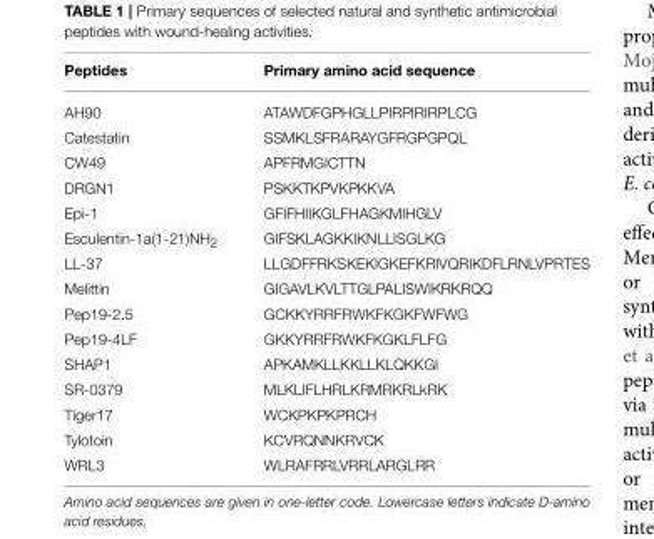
<table><thead><tr><td>Peptides</td><td>Primary amino acid sequence</td></tr></thead><tbody><tr><td>AH90</td><td>ATAWDFGPHGLLPIRPIRIRPLCG</td></tr><tr><td>Catestatin</td><td>SSMKLSFRARAYGFRGPGPQL</td></tr><tr><td>CW49</td><td>APFRMGICTTN</td></tr><tr><td>DRGN1</td><td>PSKKTKPVKPKKVA</td></tr><tr><td>Epi-1</td><td>GFIFHIIKGLFHAGKMIHGLV</td></tr><tr><td>Esculentin-1a(1-21)NH<sub>2</sub></td><td>GIFSKLAGKKIKNLLISGLKG</td></tr><tr><td>LL-37</td><td>LLGDFFRKSKEKIGKEFKRIVQRIKDFLRNLVPRTES</td></tr><tr><td>Melittin</td><td>GIGAVLKVLTTGLPALISWIKRKRQQ</td></tr><tr><td>Pep19-2.5</td><td>GCKKYRRFRWKFKGKFWFWG</td></tr><tr><td>Pep19-4LF</td><td>GKKYRRFRWKFKGKLFLFG</td></tr><tr><td>SHAP1</td><td>APKAMKLLKKLLKLQKKGI</td></tr><tr><td>SR-0379</td><td>MLKLIFLHRLKRMRKRLkRK</td></tr><tr><td>Tiger17</td><td>WCKPKPKPRCH</td></tr><tr><td>Tylotoin</td><td>KCVRQNNKRVCK</td></tr><tr><td>WRL3</td><td>WLRAFRRLVRRLARGLRR</td></tr></tbody></table>